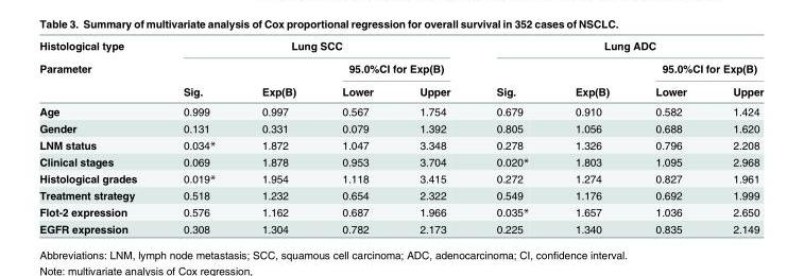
<table><thead><tr><td rowspan="3">Histological type Parameter</td><td colspan="4">Lung SCC</td><td colspan="4">Lung ADC</td></tr><tr><td rowspan="2">Sig.</td><td rowspan="2">Exp(B)</td><td colspan="2">95.0%CI for Exp(B)</td><td rowspan="2">Sig.</td><td rowspan="2">Exp(B)</td><td colspan="2">95.0%CI for Exp(B)</td></tr><tr><td>Lower</td><td>Upper</td><td>Lower</td><td>Upper</td></tr></thead><tbody><tr><td>Age</td><td>0.999</td><td>0.997</td><td>0.567</td><td>1.754</td><td>0.679</td><td>0.910</td><td>0.582</td><td>1.424</td></tr><tr><td>Gender</td><td>0.131</td><td>0.331</td><td>0.079</td><td>1.392</td><td>0.805</td><td>1.056</td><td>0.688</td><td>1.620</td></tr><tr><td>LNM status</td><td>0.034*</td><td>1.872</td><td>1.047</td><td>3.348</td><td>0.278</td><td>1.326</td><td>0.796</td><td>2.208</td></tr><tr><td>Clinical stages</td><td>0.069</td><td>1.878</td><td>0.953</td><td>3.704</td><td>0.020*</td><td>1.803</td><td>1.095</td><td>2.968</td></tr><tr><td>Histological grades</td><td>0.019*</td><td>1.954</td><td>1.118</td><td>3.415</td><td>0.272</td><td>1.274</td><td>0.827</td><td>1.961</td></tr><tr><td>Treatment strategy</td><td>0.518</td><td>1.232</td><td>0.654</td><td>2.322</td><td>0.549</td><td>1.176</td><td>0.692</td><td>1.999</td></tr><tr><td>Flot-2 expression</td><td>0.576</td><td>1.162</td><td>0.687</td><td>1.966</td><td>0.035*</td><td>1.657</td><td>1.036</td><td>2.650</td></tr><tr><td>EGFR expression</td><td>0.308</td><td>1.304</td><td>0.782</td><td>2.173</td><td>0.225</td><td>1.340</td><td>0.835</td><td>2.149</td></tr></tbody></table>